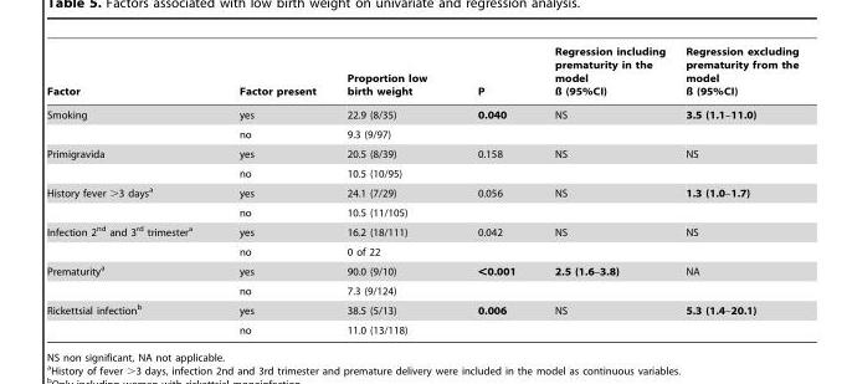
<table><thead><tr><td>Factor</td><td>Factor present</td><td>Proportion low birth weight</td><td>P</td><td>Regression including prematurity in the model ß (95%CI)</td><td>Regression excluding prematurity from the model ß (95%CI)</td></tr></thead><tbody><tr><td rowspan="2">Smoking</td><td>yes</td><td>22.9 (8/35)</td><td>0.040</td><td>NS</td><td>3.5 (1.1–11.0)</td></tr><tr><td>no</td><td>9.3 (9/97)</td><td></td><td></td><td></td></tr><tr><td rowspan="2">Primigravida</td><td>yes</td><td>20.5 (8/39)</td><td>0.158</td><td>NS</td><td>NS</td></tr><tr><td>no</td><td>10.5 (10/95)</td><td></td><td></td><td></td></tr><tr><td rowspan="2">History fever &gt;3 days<sup>a</sup></td><td>yes</td><td>24.1 (7/29)</td><td>0.056</td><td>NS</td><td>1.3 (1.0–1.7)</td></tr><tr><td>no</td><td>10.5 (11/105)</td><td></td><td></td><td></td></tr><tr><td rowspan="2">Infection 2<sup>nd</sup> and 3<sup>rd</sup> trimester<sup>a</sup></td><td>yes</td><td>16.2 (18/111)</td><td>0.042</td><td>NS</td><td>NS</td></tr><tr><td>no</td><td>0 of 22</td><td></td><td></td><td></td></tr><tr><td rowspan="2">Prematurity<sup>a</sup></td><td>yes</td><td>90.0 (9/10)</td><td>&lt;0.001</td><td>2.5 (1.6–3.8)</td><td>NA</td></tr><tr><td>no</td><td>7.3 (9/124)</td><td></td><td></td><td></td></tr><tr><td rowspan="2">Rickettsial infection<sup>b</sup></td><td>yes</td><td>38.5 (5/13)</td><td>0.006</td><td>NS</td><td>5.3 (1.4–20.1)</td></tr><tr><td>no</td><td>11.0 (13/118)</td><td></td><td></td><td></td></tr></tbody></table>